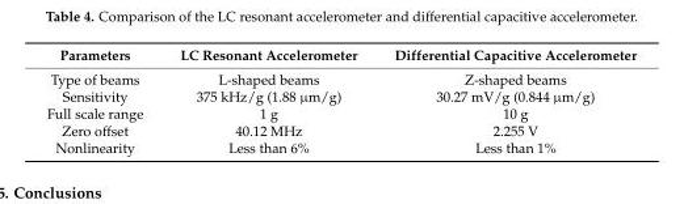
<table><thead><tr><td>Parameters</td><td>LC Resonant Accelerometer</td><td>Differential Capacitive Accelerometer</td></tr></thead><tbody><tr><td>Type of beams</td><td>L-shaped beams</td><td>Z-shaped beams</td></tr><tr><td>Sensitivity</td><td>375 kHz/g (1.88 µm/g)</td><td>30.27 mV/g (0.844 µm/g)</td></tr><tr><td>Full scale range</td><td>1 g</td><td>10 g</td></tr><tr><td>Zero offset</td><td>40.12 MHz</td><td>2.255 V</td></tr><tr><td>Nonlinearity</td><td>Less than 6%</td><td>Less than 1%</td></tr></tbody></table>